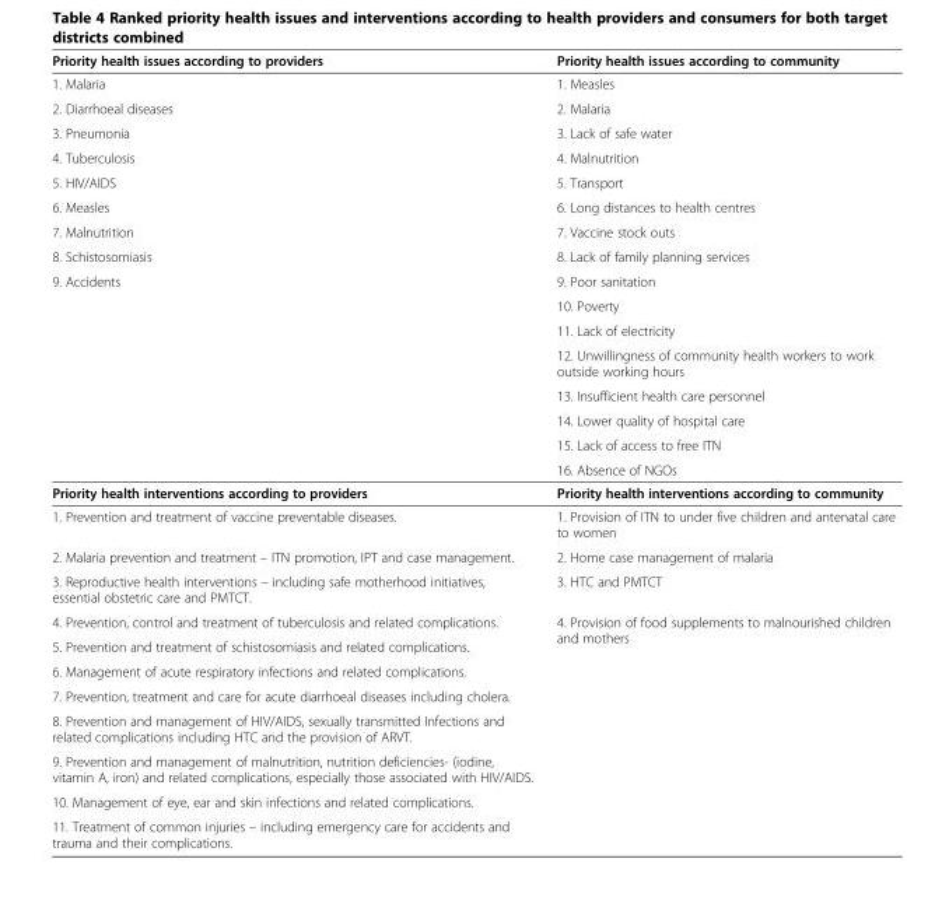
<table><thead><tr><td>Priority health issues according to providers</td><td>Priority health issues according to community</td></tr></thead><tbody><tr><td>1. Malaria</td><td>1. Measles</td></tr><tr><td>2. Diarrhoeal diseases</td><td>2. Malaria</td></tr><tr><td>3. Pneumonia</td><td>3. Lack of safe water</td></tr><tr><td>4. Tuberculosis</td><td>4. Malnutrition</td></tr><tr><td>5. HIV/AIDS</td><td>5. Transport</td></tr><tr><td>6. Measles</td><td>6. Long distances to health centres</td></tr><tr><td>7. Malnutrition</td><td>7. Vaccine stock outs</td></tr><tr><td>8. Schistosomiasis</td><td>8. Lack of family planning services</td></tr><tr><td rowspan="8">9. Accidents</td><td>9. Poor sanitation</td></tr><tr><td>10. Poverty</td></tr><tr><td>11. Lack of electricity</td></tr><tr><td>12. Unwillingness of community health workers to work outside working hours</td></tr><tr><td>13. Insufficient health care personnel</td></tr><tr><td>14. Lower quality of hospital care</td></tr><tr><td>15. Lack of access to free ITN</td></tr><tr><td>16. Absence of NGOs</td></tr><tr><td>Priority health interventions according to providers</td><td>Priority health interventions according to community</td></tr><tr><td>1. Prevention and treatment of vaccine preventable diseases.</td><td>1. Provision of ITN to under five children and antenatal care to women</td></tr><tr><td>2. Malaria prevention and treatment – ITN promotion, IPT and case management.</td><td>2. Home case management of malaria</td></tr><tr><td>3. Reproductive health interventions – including safe motherhood initiatives, essential obstetric care and PMTCT.</td><td>3. HTC and PMTCT</td></tr><tr><td>4. Prevention, control and treatment of tuberculosis and related complications.</td><td rowspan="7">4. Provision of food supplements to malnourished children and mothers</td></tr><tr><td>5. Prevention and treatment of schistosomiasis and related complications.</td></tr><tr><td>6. Management of acute respiratory infections and related complications.</td></tr><tr><td>7. Prevention, treatment and care for acute diarrhoeal diseases including cholera.</td></tr><tr><td>8. Prevention and management of HIV/AIDS, sexually transmitted Infections and related complications including HTC and the provision of ARVT.</td></tr><tr><td>9. Prevention and management of malnutrition, nutrition deficiencies- (iodine, vitamin A, iron) and related complications, especially those associated with HIV/AIDS.</td></tr><tr><td>10. Management of eye, ear and skin infections and related complications.</td></tr><tr><td>11. Treatment of common injuries – including emergency care for accidents and trauma and their complications.</td><td></td></tr></tbody></table>